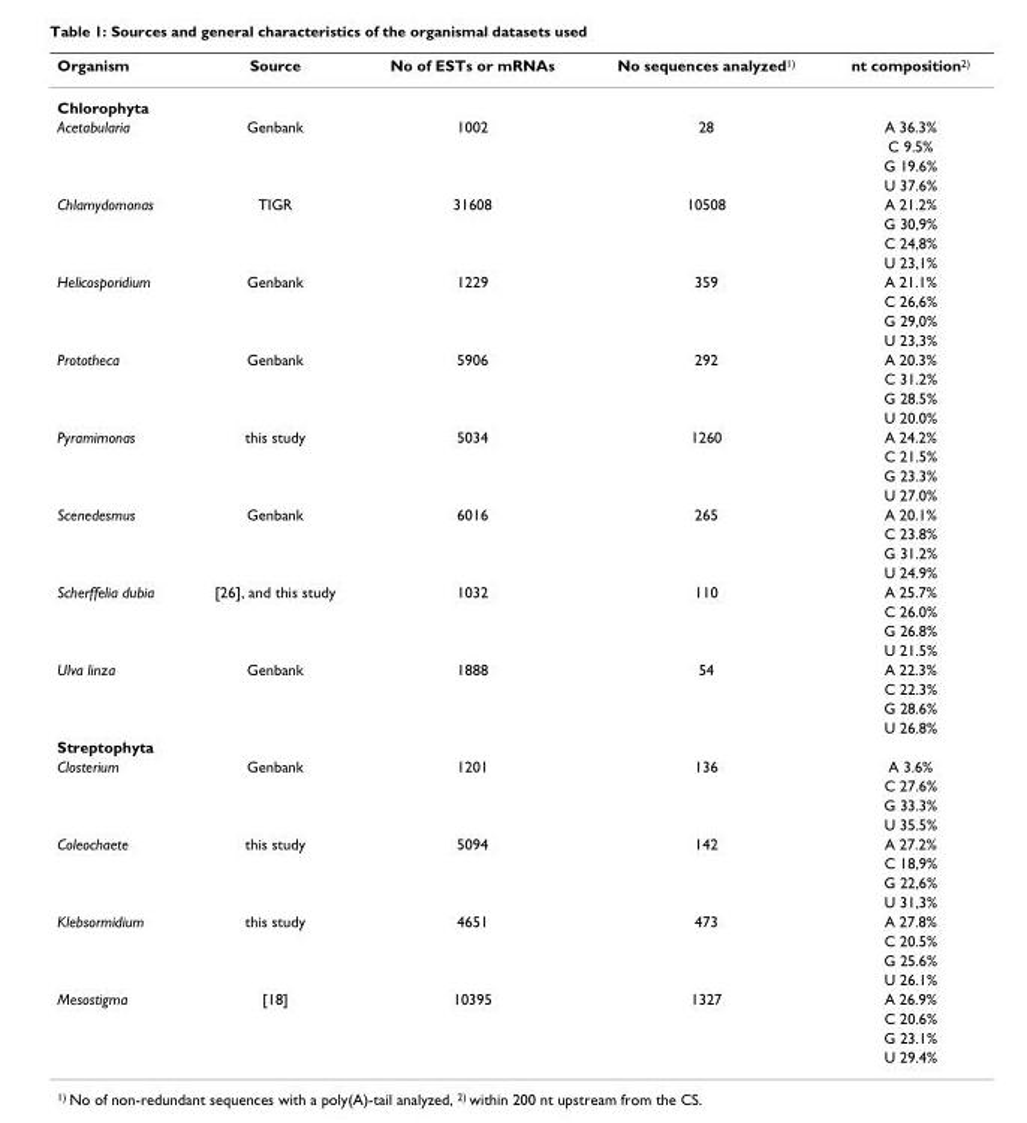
<table><thead><tr><td>Organism</td><td>Source</td><td>No of ESTs or mRNAs</td><td>No sequences analyzed<sup>1)</sup></td><td>nt composition<sup>2)</sup></td></tr></thead><tbody><tr><td colspan="5">Chlorophyta</td></tr><tr><td rowspan="4">Acetabularia</td><td>Genbank</td><td>1002</td><td>28</td><td>A 36.3%</td></tr><tr><td></td><td></td><td></td><td>C 9.5%</td></tr><tr><td></td><td></td><td></td><td>G 19.6%</td></tr><tr><td></td><td></td><td></td><td>U 37.6%</td></tr><tr><td rowspan="4">Chlamydomonas</td><td>TIGR</td><td>31608</td><td>10508</td><td>A 21.2%</td></tr><tr><td></td><td></td><td></td><td>G 30,9%</td></tr><tr><td></td><td></td><td></td><td>C 24,8%</td></tr><tr><td></td><td></td><td></td><td>U 23,1%</td></tr><tr><td rowspan="4">Helicosporidium</td><td>Genbank</td><td>1229</td><td>359</td><td>A 21.1%</td></tr><tr><td></td><td></td><td></td><td>C 26,6%</td></tr><tr><td></td><td></td><td></td><td>G 29,0%</td></tr><tr><td></td><td></td><td></td><td>U 23,3%</td></tr><tr><td rowspan="4">Prototheca</td><td>Genbank</td><td>5906</td><td>292</td><td>A 20.3%</td></tr><tr><td></td><td></td><td></td><td>C 31.2%</td></tr><tr><td></td><td></td><td></td><td>G 28.5%</td></tr><tr><td></td><td></td><td></td><td>U 20.0%</td></tr><tr><td rowspan="4">Pyramimonas</td><td>this study</td><td>5034</td><td>1260</td><td>A 24.2%</td></tr><tr><td></td><td></td><td></td><td>C 21.5%</td></tr><tr><td></td><td></td><td></td><td>G 23.3%</td></tr><tr><td></td><td></td><td></td><td>U 27.0%</td></tr><tr><td rowspan="4">Scenedesmus</td><td>Genbank</td><td>6016</td><td>265</td><td>A 20.1%</td></tr><tr><td></td><td></td><td></td><td>C 23.8%</td></tr><tr><td></td><td></td><td></td><td>G 31.2%</td></tr><tr><td></td><td></td><td></td><td>U 24.9%</td></tr><tr><td rowspan="4">Scherffelia dubia</td><td>[26], and this study</td><td>1032</td><td>110</td><td>A 25.7%</td></tr><tr><td></td><td></td><td></td><td>C 26.0%</td></tr><tr><td></td><td></td><td></td><td>G 26.8%</td></tr><tr><td></td><td></td><td></td><td>U 21.5%</td></tr><tr><td rowspan="4">Ulva linza</td><td>Genbank</td><td>1888</td><td>54</td><td>A 22.3%</td></tr><tr><td></td><td></td><td></td><td>C 22.3%</td></tr><tr><td></td><td></td><td></td><td>G 28.6%</td></tr><tr><td></td><td></td><td></td><td>U 26.8%</td></tr><tr><td colspan="5">Streptophyta</td></tr><tr><td rowspan="4">Closterium</td><td>Genbank</td><td>1201</td><td>136</td><td>A 3.6%</td></tr><tr><td></td><td></td><td></td><td>C 27.6%</td></tr><tr><td></td><td></td><td></td><td>G 33.3%</td></tr><tr><td></td><td></td><td></td><td>U 35.5%</td></tr><tr><td rowspan="4">Coleochaete</td><td>this study</td><td>5094</td><td>142</td><td>A 27.2%</td></tr><tr><td></td><td></td><td></td><td>C 18,9%</td></tr><tr><td></td><td></td><td></td><td>G 22,6%</td></tr><tr><td></td><td></td><td></td><td>U 31,3%</td></tr><tr><td rowspan="4">Klebsormidium</td><td>this study</td><td>4651</td><td>473</td><td>A 27.8%</td></tr><tr><td></td><td></td><td></td><td>C 20.5%</td></tr><tr><td></td><td></td><td></td><td>G 25.6%</td></tr><tr><td></td><td></td><td></td><td>U 26.1%</td></tr><tr><td rowspan="4">Mesostigma</td><td>[18]</td><td>10395</td><td>1327</td><td>A 26.9%</td></tr><tr><td></td><td></td><td></td><td>C 20.6%</td></tr><tr><td></td><td></td><td></td><td>G 23.1%</td></tr><tr><td></td><td></td><td></td><td>U 29.4%</td></tr></tbody></table>